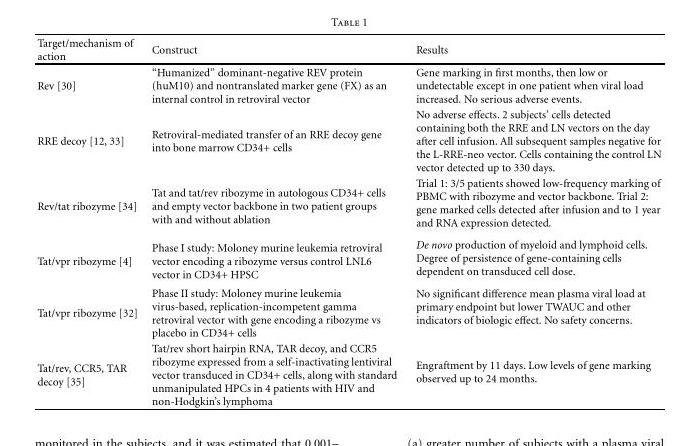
<table><thead><tr><td>Target/mechanism of action</td><td>Construct</td><td>Results</td></tr></thead><tbody><tr><td>Rev [30]</td><td>“Humanized” dominant-negative REV protein (huM10) and nontranslated marker gene (FX) as an internal control in retroviral vector</td><td>Gene marking in first months, then low or undetectable except in one patient when viral load increased. No serious adverse events.</td></tr><tr><td>RRE decoy [12, 33]</td><td>Retroviral-mediated transfer of an RRE decoy gene into bone marrow CD34+ cells</td><td>No adverse effects. 2 subjects’ cells detected containing both the RRE and LN vectors on the day after cell infusion. All subsequent samples negative for the L-RRE-neo vector. Cells containing the control LN vector detected up to 330 days.</td></tr><tr><td>Rev/tat ribozyme [34]</td><td>Tat and tat/rev ribozyme in autologous CD34+ cells and empty vector backbone in two patient groups with and without ablation</td><td>Trial 1: 3/5 patients showed low-frequency marking of PBMC with ribozyme and vector backbone. Trial 2: gene marked cells detected after infusion and to 1 year and RNA expression detected.</td></tr><tr><td>Tat/vpr ribozyme [4]</td><td>Phase I study: Moloney murine leukemia retroviral vector encoding a ribozyme versus control LNL6 vector in CD34+ HPSC</td><td>De novo production of myeloid and lymphoid cells. Degree of persistence of gene-containing cells dependent on transduced cell dose.</td></tr><tr><td>Tat/vpr ribozyme [32]</td><td>Phase II study: Moloney murine leukemia virus-based, replication-incompetent gamma retroviral vector with gene encoding a ribozyme vs placebo in CD34+ cells</td><td>No significant difference mean plasma viral load at primary endpoint but lower TWAUC and other indicators of biologic effect. No safety concerns.</td></tr><tr><td>Tat/rev, CCR5, TAR decoy [35]</td><td>Tat/rev short hairpin RNA, TAR decoy, and CCR5 ribozyme expressed from a self-inactivating lentiviral vector transduced in CD34+ cells, along with standard unmanipulated HPCs in 4 patients with HIV and non-Hodgkin’s lymphoma</td><td>Engraftment by 11 days. Low levels of gene marking observed up to 24 months.</td></tr></tbody></table>